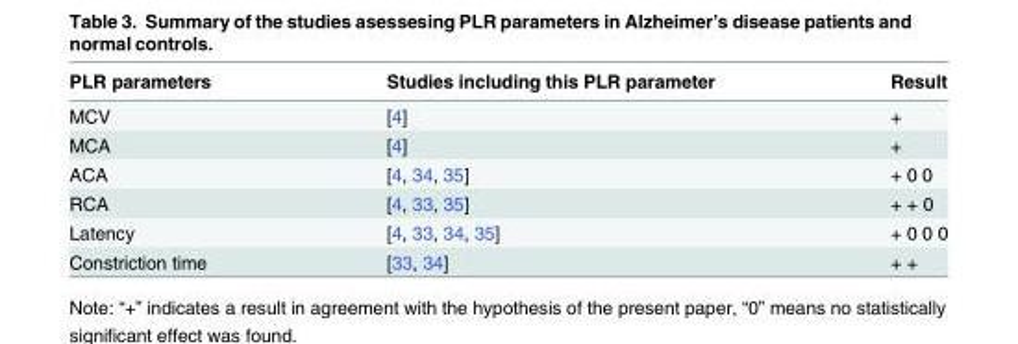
<table><thead><tr><td>PLR parameters</td><td>Studies including this PLR parameter</td><td>Result</td></tr></thead><tbody><tr><td>MCV</td><td>[4]</td><td>+</td></tr><tr><td>MCA</td><td>[4]</td><td>+</td></tr><tr><td>ACA</td><td>[4, 34, 35]</td><td>+ 0 0</td></tr><tr><td>RCA</td><td>[4, 33, 35]</td><td>+ + 0</td></tr><tr><td>Latency</td><td>[4, 33, 34, 35]</td><td>+ 0 0 0</td></tr><tr><td>Constriction time</td><td>[33, 34]</td><td>+ +</td></tr></tbody></table>